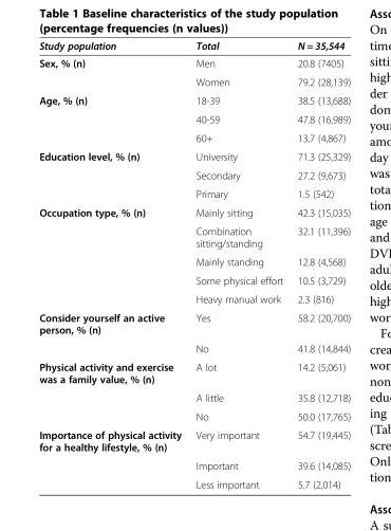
<table><thead><tr><td>Study population</td><td>Total</td><td>N = 35,544</td></tr></thead><tbody><tr><td rowspan="2">Sex, % (n)</td><td>Men</td><td>20.8 (7405)</td></tr><tr><td>Women</td><td>79.2 (28,139)</td></tr><tr><td rowspan="3">Age, % (n)</td><td>18-39</td><td>38.5 (13,688)</td></tr><tr><td>40-59</td><td>47.8 (16,989)</td></tr><tr><td>60+</td><td>13.7 (4,867)</td></tr><tr><td rowspan="3">Education level, % (n)</td><td>University</td><td>71.3 (25,329)</td></tr><tr><td>Secondary</td><td>27.2 (9,673)</td></tr><tr><td>Primary</td><td>1.5 (542)</td></tr><tr><td rowspan="5">Occupation type, % (n)</td><td>Mainly sitting</td><td>42.3 (15,035)</td></tr><tr><td>Combination sitting/standing</td><td>32.1 (11,396)</td></tr><tr><td>Mainly standing</td><td>12.8 (4,568)</td></tr><tr><td>Some physical effort</td><td>10.5 (3,729)</td></tr><tr><td>Heavy manual work</td><td>2.3 (816)</td></tr><tr><td rowspan="2">Consider yourself an active person, % (n)</td><td>Yes</td><td>58.2 (20,700)</td></tr><tr><td>No</td><td>41.8 (14,844)</td></tr><tr><td rowspan="3">Physical activity and exercise was a family value, % (n)</td><td>A lot</td><td>14.2 (5,061)</td></tr><tr><td>A little</td><td>35.8 (12,718)</td></tr><tr><td>No</td><td>50.0 (17,765)</td></tr><tr><td rowspan="3">Importance of physical activity for a healthy lifestyle, % (n)</td><td>Very important</td><td>54.7 (19,445)</td></tr><tr><td>Important</td><td>39.6 (14,085)</td></tr><tr><td>Less important</td><td>5.7 (2,014)</td></tr></tbody></table>